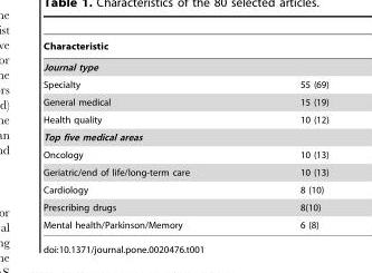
<table><thead><tr><td>Characteristic</td><td></td></tr></thead><tbody><tr><td colspan="2">Journal type</td></tr><tr><td>Specialty</td><td>55 (69)</td></tr><tr><td>General medical</td><td>15 (19)</td></tr><tr><td>Health quality</td><td>10 (12)</td></tr><tr><td colspan="2">Top five medical areas</td></tr><tr><td>Oncology</td><td>10 (13)</td></tr><tr><td>Geriatric/end of life/long-term care</td><td>10 (13)</td></tr><tr><td>Cardiology</td><td>8 (10)</td></tr><tr><td>Prescribing drugs</td><td>8(10)</td></tr><tr><td>Mental health/Parkinson/Memory</td><td>6 (8)</td></tr></tbody></table>